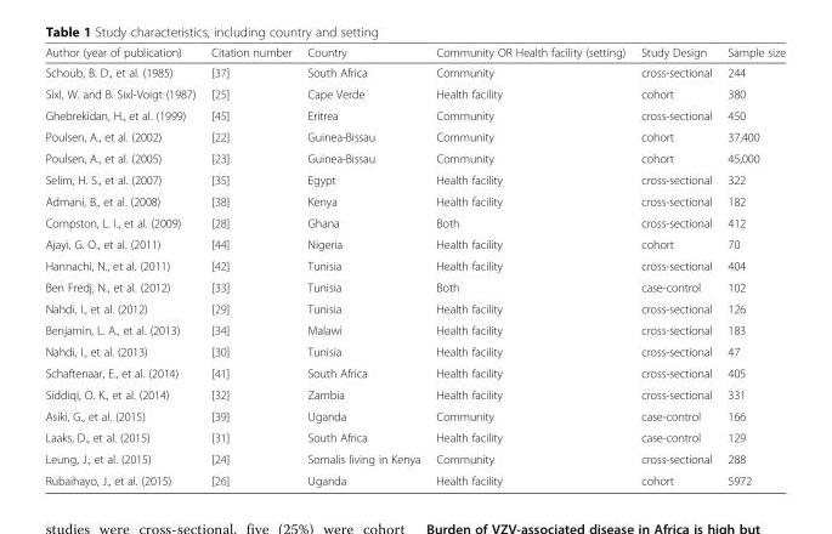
<table><thead><tr><td>Author (year of publication)</td><td>Citation number</td><td>Country</td><td>Community OR Health facility (setting)</td><td>Study Design</td><td>Sample size</td></tr></thead><tbody><tr><td>Schoub, B. D., et al. (1985)</td><td>[37]</td><td>South Africa</td><td>Community</td><td>cross-sectional</td><td>244</td></tr><tr><td>Sixl, W. and B. Sixl-Voigt (1987)</td><td>[25]</td><td>Cape Verde</td><td>Health facility</td><td>cohort</td><td>380</td></tr><tr><td>Ghebrekidan, H., et al. (1999)</td><td>[45]</td><td>Eritrea</td><td>Community</td><td>cross-sectional</td><td>450</td></tr><tr><td>Poulsen, A., et al. (2002)</td><td>[22]</td><td>Guinea-Bissau</td><td>Community</td><td>cohort</td><td>37,400</td></tr><tr><td>Poulsen, A., et al. (2005)</td><td>[23]</td><td>Guinea-Bissau</td><td>Community</td><td>cohort</td><td>45,000</td></tr><tr><td>Selim, H. S., et al. (2007)</td><td>[35]</td><td>Egypt</td><td>Health facility</td><td>cross-sectional</td><td>322</td></tr><tr><td>Admani, B., et al. (2008)</td><td>[38]</td><td>Kenya</td><td>Health facility</td><td>cross-sectional</td><td>182</td></tr><tr><td>Compston, L. I., et al. (2009)</td><td>[28]</td><td>Ghana</td><td>Both</td><td>cross-sectional</td><td>412</td></tr><tr><td>Ajayi, G. O., et al. (2011)</td><td>[44]</td><td>Nigeria</td><td>Health facility</td><td>cohort</td><td>70</td></tr><tr><td>Hannachi, N., et al. (2011)</td><td>[42]</td><td>Tunisia</td><td>Health facility</td><td>cross-sectional</td><td>404</td></tr><tr><td>Ben Fredj, N., et al. (2012)</td><td>[33]</td><td>Tunisia</td><td>Both</td><td>case-control</td><td>102</td></tr><tr><td>Nahdi, I., et al. (2012)</td><td>[29]</td><td>Tunisia</td><td>Health facility</td><td>cross-sectional</td><td>126</td></tr><tr><td>Benjamin, L. A., et al. (2013)</td><td>[34]</td><td>Malawi</td><td>Health facility</td><td>cross-sectional</td><td>183</td></tr><tr><td>Nahdi, I., et al. (2013)</td><td>[30]</td><td>Tunisia</td><td>Health facility</td><td>cross-sectional</td><td>47</td></tr><tr><td>Schaftenaar, E., et al. (2014)</td><td>[41]</td><td>South Africa</td><td>Health facility</td><td>cross-sectional</td><td>405</td></tr><tr><td>Siddiqi, O. K., et al. (2014)</td><td>[32]</td><td>Zambia</td><td>Health facility</td><td>cross-sectional</td><td>331</td></tr><tr><td>Asiki, G., et al. (2015)</td><td>[39]</td><td>Uganda</td><td>Community</td><td>case-control</td><td>166</td></tr><tr><td>Laaks, D., et al. (2015)</td><td>[31]</td><td>South Africa</td><td>Health facility</td><td>case-control</td><td>129</td></tr><tr><td>Leung, J., et al. (2015)</td><td>[24]</td><td>Somalis living in Kenya</td><td>Community</td><td>cross-sectional</td><td>288</td></tr><tr><td>Rubaihayo, J., et al. (2015)</td><td>[26]</td><td>Uganda</td><td>Health facility</td><td>cohort</td><td>5972</td></tr></tbody></table>